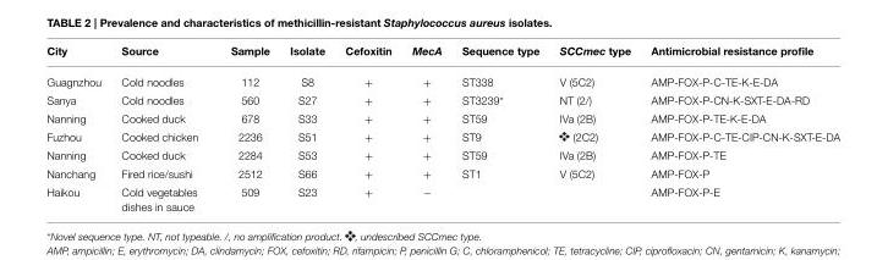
<table><thead><tr><td>City</td><td>Source</td><td>Sample</td><td>Isolate</td><td>Cefoxitin</td><td>MecA</td><td>Sequence type</td><td>SCCmec type</td><td>Antimicrobial resistance profile</td></tr></thead><tbody><tr><td>Guagnzhou</td><td>Cold noodles</td><td>112</td><td>S8</td><td>+</td><td>+</td><td>ST338</td><td>V (5C2)</td><td>AMP-FOX-P-C-TE-K-E-DA</td></tr><tr><td>Sanya</td><td>Cold noodles</td><td>560</td><td>S27</td><td>+</td><td>+</td><td>ST3239*</td><td>NT (2/)</td><td>AMP-FOX-P-CN-K-SXT-E-DA-RD</td></tr><tr><td>Nanning</td><td>Cooked duck</td><td>678</td><td>S33</td><td>+</td><td>+</td><td>ST59</td><td>IVa (2B)</td><td>AMP-FOX-P-TE-K-E-DA</td></tr><tr><td>Fuzhou</td><td>Cooked chicken</td><td>2236</td><td>S51</td><td>+</td><td>+</td><td>ST9</td><td>(2C2)</td><td>AMP-FOX-P-C-TE-CIP-CN-K-SXT-E-DA</td></tr><tr><td>Nanning</td><td>Cooked duck</td><td>2284</td><td>S53</td><td>+</td><td>+</td><td>ST59</td><td>IVa (2B)</td><td>AMP-FOX-P-TE</td></tr><tr><td>Nanchang</td><td>Fired rice/sushi</td><td>2512</td><td>S66</td><td>+</td><td>+</td><td>ST1</td><td>V (5C2)</td><td>AMP-FOX-P</td></tr><tr><td>Haikou</td><td>Cold vegetables dishes in sauce</td><td>509</td><td>S23</td><td>+</td><td>−</td><td></td><td></td><td>AMP-FOX-P-E</td></tr></tbody></table>